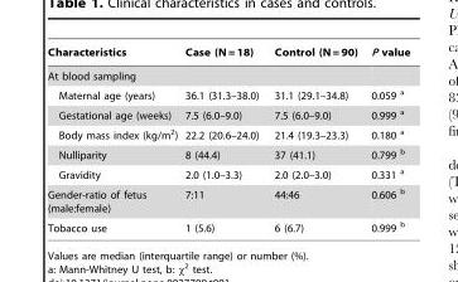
<table><thead><tr><td>Characteristics</td><td>Case (N = 18)</td><td>Control (N = 90)</td><td>P value</td></tr></thead><tbody><tr><td colspan="4">At blood sampling</td></tr><tr><td>Maternal age (years)</td><td>36.1 (31.3–38.0)</td><td>31.1 (29.1–34.8)</td><td>0.059 <sup>a</sup></td></tr><tr><td>Gestational age (weeks)</td><td>7.5 (6.0–9.0)</td><td>7.5 (6.0–9.0)</td><td>0.999 <sup>a</sup></td></tr><tr><td>Body mass index (kg/m<sup>2</sup>)</td><td>22.2 (20.6–24.0)</td><td>21.4 (19.3–23.3)</td><td>0.180 <sup>a</sup></td></tr><tr><td>Nulliparity</td><td>8 (44.4)</td><td>37 (41.1)</td><td>0.799 <sup>b</sup></td></tr><tr><td>Gravidity</td><td>2.0 (1.0–3.3)</td><td>2.0 (2.0–3.0)</td><td>0.331 <sup>a</sup></td></tr><tr><td>Gender-ratio of fetus (male:female)</td><td>7:11</td><td>44:46</td><td>0.606 <sup>b</sup></td></tr><tr><td>Tobacco use</td><td>1 (5.6)</td><td>6 (6.7)</td><td>0.999 <sup>b</sup></td></tr></tbody></table>